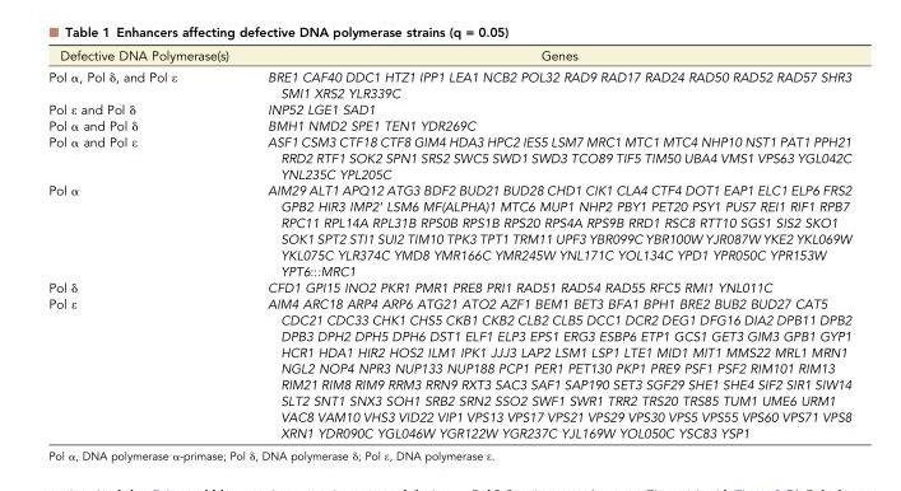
<table><thead><tr><td>Defective DNA Polymerase(s)</td><td>Genes</td></tr></thead><tbody><tr><td>Pol α, Pol δ, and Pol ε</td><td>BRE1 CAF40 DDC1 HTZ1 IPP1 LEA1 NCB2 POL32 RAD9 RAD17 RAD24 RAD50 RAD52 RAD57 SHR3 SMI1 XRS2 YLR339C</td></tr><tr><td>Pol ε and Pol δ</td><td>INP52 LGE1 SAD1</td></tr><tr><td>Pol α and Pol δ</td><td>BMH1 NMD2 SPE1 TEN1 YDR269C</td></tr><tr><td>Pol α and Pol ε</td><td>ASF1 CSM3 CTF18 CTF8 GIM4 HDA3 HPC2 IES5 LSM7 MRC1 MTC1 MTC4 NHP10 NST1 PAT1 PPH21 RRD2 RTF1 SOK2 SPN1 SRS2 SWC5 SWD1 SWD3 TCO89 TIF5 TIM50 UBA4 VMS1 VPS63 YGL042C YNL235C YPL205C</td></tr><tr><td>Pol α</td><td>AIM29 ALT1 APQ12 ATG3 BDF2 BUD21 BUD28 CHD1 CIK1 CLA4 CTF4 DOT1 EAP1 ELC1 ELP6 FRS2 GPB2 HIR3 IMP2’ LSM6 MF(ALPHA)1 MTC6 MUP1 NHP2 PBY1 PET20 PSY1 PUS7 REI1 RIF1 RPB7 RPC11 RPL14A RPL31B RPS0B RPS1B RPS20 RPS4A RPS9B RRD1 RSC8 RTT10 SGS1 SIS2 SKO1 SOK1 SPT2 STI1 SUI2 TIM10 TPK3 TPT1 TRM11 UPF3 YBR099C YBR100W YJR087W YKE2 YKL069W YKL075C YLR374C YMD8 YMR166C YMR245W YNL171C YOL134C YPD1 YPR050C YPR153W YPT6:::MRC1</td></tr><tr><td>Pol δ</td><td>CFD1 GPI15 INO2 PKR1 PMR1 PRE8 PRI1 RAD51 RAD54 RAD55 RFC5 RMI1 YNL011C</td></tr><tr><td>Pol ε</td><td>AIM4 ARC18 ARP4 ARP6 ATG21 ATO2 AZF1 BEM1 BET3 BFA1 BPH1 BRE2 BUB2 BUD27 CAT5 CDC21 CDC33 CHK1 CHS5 CKB1 CKB2 CLB2 CLB5 DCC1 DCR2 DEG1 DFG16 DIA2 DPB11 DPB2 DPB3 DPH2 DPH5 DPH6 DST1 ELF1 ELP3 EPS1 ERG3 ESBP6 ETP1 GCS1 GET3 GIM3 GPB1 GYP1 HCR1 HDA1 HIR2 HOS2 ILM1 IPK1 JJJ3 LAP2 LSM1 LSP1 LTE1 MID1 MIT1 MMS22 MRL1 MRN1 NGL2 NOP4 NPR3 NUP133 NUP188 PCP1 PER1 PET130 PKP1 PRE9 PSF1 PSF2 RIM101 RIM13 RIM21 RIM8 RIM9 RRM3 RRN9 RXT3 SAC3 SAF1 SAP190 SET3 SGF29 SHE1 SHE4 SIF2 SIR1 SIW14 SLT2 SNT1 SNX3 SOH1 SRB2 SRN2 SSO2 SWF1 SWR1 TRR2 TRS20 TRS85 TUM1 UME6 URM1 VAC8 VAM10 VHS3 VID22 VIP1 VPS13 VPS17 VPS21 VPS29 VPS30 VPS5 VPS55 VPS60 VPS71 VPS8 XRN1 YDR090C YGL046W YGR122W YGR237C YJL169W YOL050C YSC83 YSP1</td></tr></tbody></table>